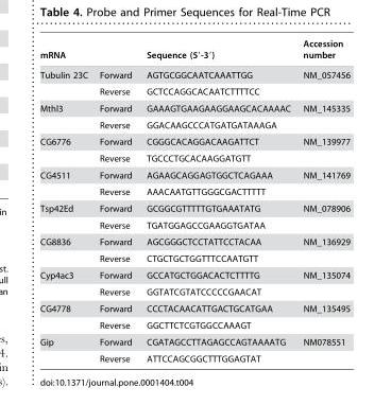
<table><thead><tr><td>mRNA</td><td></td><td>Sequence (5′-3′)</td><td>Accession number</td></tr></thead><tbody><tr><td rowspan="2">Tubulin 23C</td><td>Forward</td><td>AGTGCGGCAATCAAATTGG</td><td>NM_057456</td></tr><tr><td>Reverse</td><td>GCTCCAGGCACAATCTTTTCC</td><td></td></tr><tr><td rowspan="2">Mthl3</td><td>Forward</td><td>GAAAGTGAAGAAGGAAGCACAAAAC</td><td>NM_145335</td></tr><tr><td>Reverse</td><td>GGACAAGCCCATGATGATAAAGA</td><td></td></tr><tr><td rowspan="2">CG6776</td><td>Forward</td><td>CGGGCACAGGACAAGATTCT</td><td>NM_139977</td></tr><tr><td>Reverse</td><td>TGCCCTGCACAAGGATGTT</td><td></td></tr><tr><td rowspan="2">CG4511</td><td>Forward</td><td>AGAAGCAGGAGTGGCTCAGAAA</td><td>NM_141769</td></tr><tr><td>Reverse</td><td>AAACAATGTTGGGCGACTTTTT</td><td></td></tr><tr><td rowspan="2">Tsp42Ed</td><td>Forward</td><td>GCGGCGTTTTTGTGAAATATG</td><td>NM_078906</td></tr><tr><td>Reverse</td><td>TGATGGAGCCGAAGGTGATAA</td><td></td></tr><tr><td rowspan="2">CG8836</td><td>Forward</td><td>AGCGGGCTCCTATTCCTACAA</td><td>NM_136929</td></tr><tr><td>Reverse</td><td>CTGCTGCTGGTTTCCAATGTT</td><td></td></tr><tr><td rowspan="2">Cyp4ac3</td><td>Forward</td><td>GCCATGCTGGACACTCTTTTG</td><td>NM_135074</td></tr><tr><td>Reverse</td><td>GGTATCGTATCCCCCGAACAT</td><td></td></tr><tr><td rowspan="2">CG4778</td><td>Forward</td><td>CCCTACAACATTGACTGCATGAA</td><td>NM_135495</td></tr><tr><td>Reverse</td><td>GGCTTCTCGTGGCCAAAGT</td><td></td></tr><tr><td rowspan="2">Gip</td><td>Forward</td><td>CGATAGCCTTAGAGCCAGTAAAATG</td><td>NM078551</td></tr><tr><td>Reverse</td><td>ATTCCAGCGGCTTTGGAGTAT</td><td></td></tr></tbody></table>